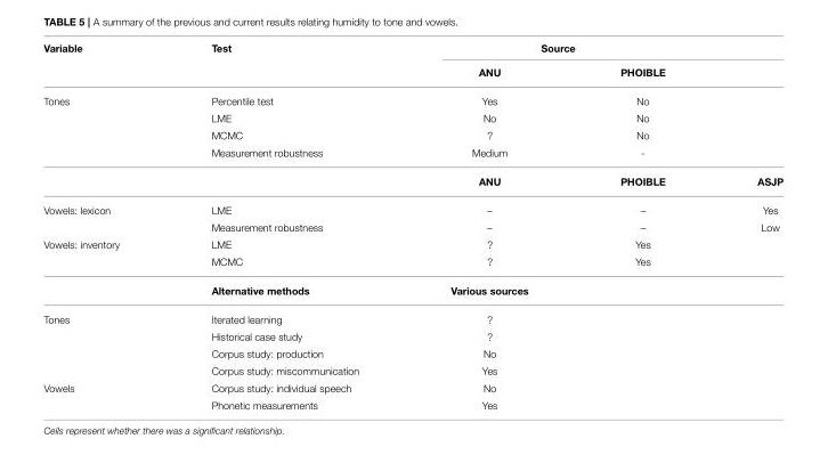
<table><thead><tr><td rowspan="2">Variable</td><td rowspan="2">Test</td><td colspan="2">Source</td><td rowspan="2"></td></tr><tr><td>ANU</td><td>PHOIBLE</td></tr></thead><tbody><tr><td rowspan="5">Tones</td><td>Percentile test</td><td>Yes</td><td>No</td><td></td></tr><tr><td>LME</td><td>No</td><td>No</td><td></td></tr><tr><td>MCMC</td><td>?</td><td>No</td><td></td></tr><tr><td>Measurement robustness</td><td>Medium</td><td>-</td><td></td></tr><tr><td></td><td>ANU</td><td>PHOIBLE</td><td>ASJP</td></tr><tr><td rowspan="2">Vowels: lexicon</td><td>LME</td><td>–</td><td>–</td><td>Yes</td></tr><tr><td>Measurement robustness</td><td>–</td><td>–</td><td>Low</td></tr><tr><td rowspan="3">Vowels: inventory</td><td>LME</td><td>?</td><td>Yes</td><td></td></tr><tr><td>MCMC</td><td>?</td><td>Yes</td><td></td></tr><tr><td>Alternative methods</td><td>Various sources</td><td></td><td></td></tr><tr><td rowspan="4">Tones</td><td>Iterated learning</td><td>?</td><td></td><td></td></tr><tr><td>Historical case study</td><td>?</td><td></td><td></td></tr><tr><td>Corpus study: production</td><td>No</td><td></td><td></td></tr><tr><td>Corpus study: miscommunication</td><td>Yes</td><td></td><td></td></tr><tr><td rowspan="2">Vowels</td><td>Corpus study: individual speech</td><td>No</td><td></td><td></td></tr><tr><td>Phonetic measurements</td><td>Yes</td><td></td><td></td></tr></tbody></table>